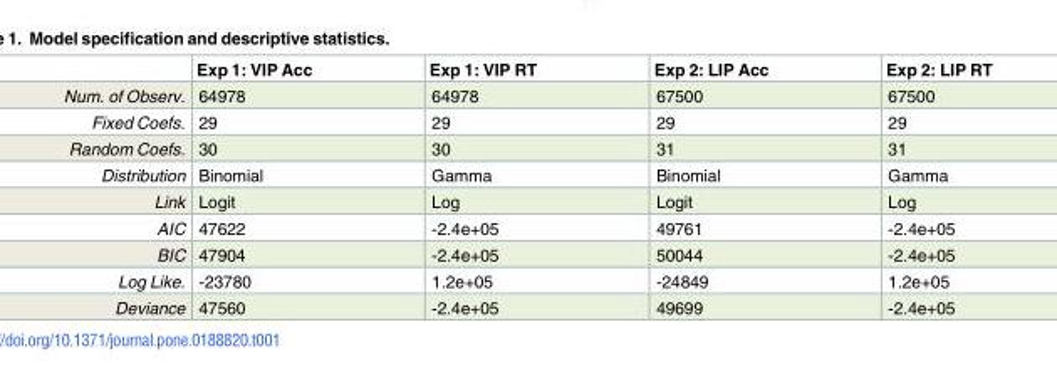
<table><thead><tr><td></td><td>Exp 1: VIP Acc</td><td>Exp 1: VIP RT</td><td>Exp 2: LIP Acc</td><td>Exp 2: LIP RT</td></tr></thead><tbody><tr><td>Num. of Observ.</td><td>64978</td><td>64978</td><td>67500</td><td>67500</td></tr><tr><td>Fixed Coefs.</td><td>29</td><td>29</td><td>29</td><td>29</td></tr><tr><td>Random Coefs.</td><td>30</td><td>30</td><td>31</td><td>31</td></tr><tr><td>Distribution</td><td>Binomial</td><td>Gamma</td><td>Binomial</td><td>Gamma</td></tr><tr><td>Link</td><td>Logit</td><td>Log</td><td>Logit</td><td>Log</td></tr><tr><td>AIC</td><td>47622</td><td>-2.4e+05</td><td>49761</td><td>-2.4e+05</td></tr><tr><td>BIC</td><td>47904</td><td>-2.4e+05</td><td>50044</td><td>-2.4e+05</td></tr><tr><td>Log Like.</td><td>-23780</td><td>1.2e+05</td><td>-24849</td><td>1.2e+05</td></tr><tr><td>Deviance</td><td>47560</td><td>-2.4e+05</td><td>49699</td><td>-2.4e+05</td></tr></tbody></table>